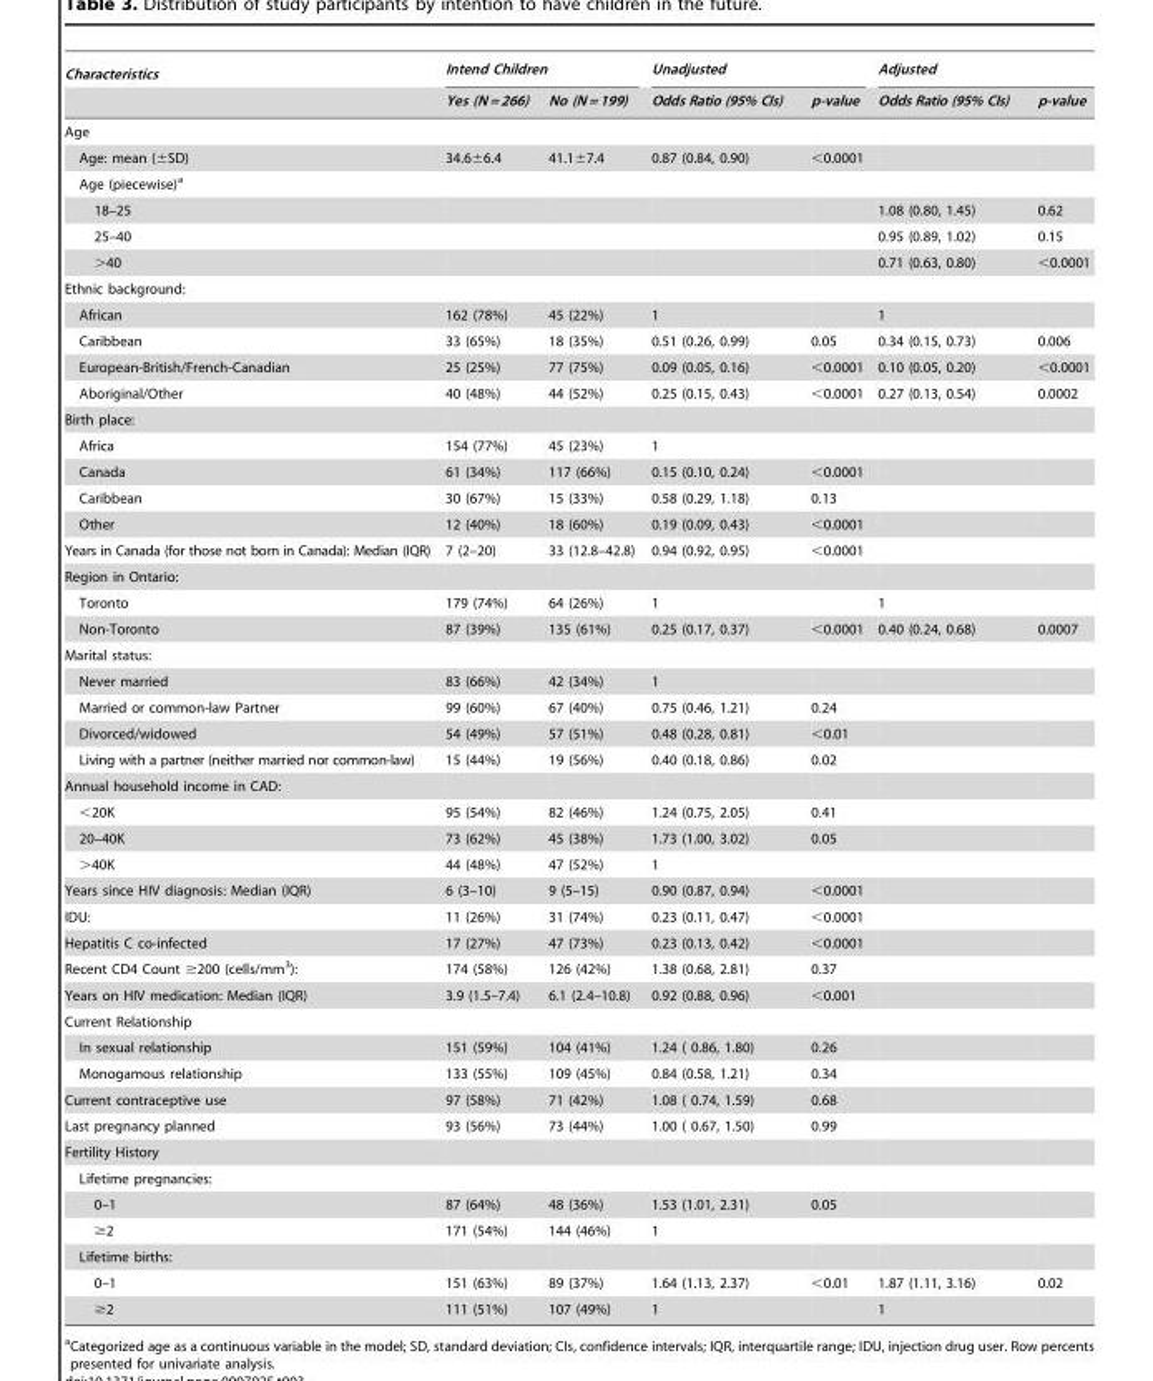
<table><thead><tr><td rowspan="2">Characteristics</td><td colspan="2">Intend Children</td><td colspan="2">Unadjusted</td><td colspan="2">Adjusted</td></tr><tr><td>Yes (N = 266)</td><td>No (N = 199)</td><td>Odds Ratio (95% CIs)</td><td>p-value</td><td>Odds Ratio (95% CIs)</td><td>p-value</td></tr></thead><tbody><tr><td colspan="7">Age</td></tr><tr><td>Age: mean (±SD)</td><td>34.6±6.4</td><td>41.1±7.4</td><td>0.87 (0.84, 0.90)</td><td>&lt;0.0001</td><td></td><td></td></tr><tr><td colspan="7">Age (piecewise)<sup>a</sup></td></tr><tr><td>18–25</td><td></td><td></td><td></td><td></td><td>1.08 (0.80, 1.45)</td><td>0.62</td></tr><tr><td>25–40</td><td></td><td></td><td></td><td></td><td>0.95 (0.89, 1.02)</td><td>0.15</td></tr><tr><td>&gt;40</td><td></td><td></td><td></td><td></td><td>0.71 (0.63, 0.80)</td><td>&lt;0.0001</td></tr><tr><td colspan="7">Ethnic background:</td></tr><tr><td>African</td><td>162 (78%)</td><td>45 (22%)</td><td>1</td><td></td><td>1</td><td></td></tr><tr><td>Caribbean</td><td>33 (65%)</td><td>18 (35%)</td><td>0.51 (0.26, 0.99)</td><td>0.05</td><td>0.34 (0.15, 0.73)</td><td>0.006</td></tr><tr><td>European-British/French-Canadian</td><td>25 (25%)</td><td>77 (75%)</td><td>0.09 (0.05, 0.16)</td><td>&lt;0.0001</td><td>0.10 (0.05, 0.20)</td><td>&lt;0.0001</td></tr><tr><td>Aboriginal/Other</td><td>40 (48%)</td><td>44 (52%)</td><td>0.25 (0.15, 0.43)</td><td>&lt;0.0001</td><td>0.27 (0.13, 0.54)</td><td>0.0002</td></tr><tr><td colspan="7">Birth place:</td></tr><tr><td>Africa</td><td>154 (77%)</td><td>45 (23%)</td><td>1</td><td></td><td></td><td></td></tr><tr><td>Canada</td><td>61 (34%)</td><td>117 (66%)</td><td>0.15 (0.10, 0.24)</td><td>&lt;0.0001</td><td></td><td></td></tr><tr><td>Caribbean</td><td>30 (67%)</td><td>15 (33%)</td><td>0.58 (0.29, 1.18)</td><td>0.13</td><td></td><td></td></tr><tr><td>Other</td><td>12 (40%)</td><td>18 (60%)</td><td>0.19 (0.09, 0.43)</td><td>&lt;0.0001</td><td></td><td></td></tr><tr><td>Years in Canada (for those not born in Canada): Median (IQR)</td><td>7 (2–20)</td><td>33 (12.8–42.8)</td><td>0.94 (0.92, 0.95)</td><td>&lt;0.0001</td><td></td><td></td></tr><tr><td colspan="7">Region in Ontario:</td></tr><tr><td>Toronto</td><td>179 (74%)</td><td>64 (26%)</td><td>1</td><td></td><td>1</td><td></td></tr><tr><td>Non-Toronto</td><td>87 (39%)</td><td>135 (61%)</td><td>0.25 (0.17, 0.37)</td><td>&lt;0.0001</td><td>0.40 (0.24, 0.68)</td><td>0.0007</td></tr><tr><td colspan="7">Marital status:</td></tr><tr><td>Never married</td><td>83 (66%)</td><td>42 (34%)</td><td>1</td><td></td><td></td><td></td></tr><tr><td>Married or common-law Partner</td><td>99 (60%)</td><td>67 (40%)</td><td>0.75 (0.46, 1.21)</td><td>0.24</td><td></td><td></td></tr><tr><td>Divorced/widowed</td><td>54 (49%)</td><td>57 (51%)</td><td>0.48 (0.28, 0.81)</td><td>&lt;0.01</td><td></td><td></td></tr><tr><td>Living with a partner (neither married nor common-law)</td><td>15 (44%)</td><td>19 (56%)</td><td>0.40 (0.18, 0.86)</td><td>0.02</td><td></td><td></td></tr><tr><td colspan="7">Annual household income in CAD:</td></tr><tr><td>&lt;20K</td><td>95 (54%)</td><td>82 (46%)</td><td>1.24 (0.75, 2.05)</td><td>0.41</td><td></td><td></td></tr><tr><td>20–40K</td><td>73 (62%)</td><td>45 (38%)</td><td>1.73 (1.00, 3.02)</td><td>0.05</td><td></td><td></td></tr><tr><td>&gt;40K</td><td>44 (48%)</td><td>47 (52%)</td><td>1</td><td></td><td></td><td></td></tr><tr><td>Years since HIV diagnosis: Median (IQR)</td><td>6 (3–10)</td><td>9 (5–15)</td><td>0.90 (0.87, 0.94)</td><td>&lt;0.0001</td><td></td><td></td></tr><tr><td>IDU:</td><td>11 (26%)</td><td>31 (74%)</td><td>0.23 (0.11, 0.47)</td><td>&lt;0.0001</td><td></td><td></td></tr><tr><td>Hepatitis C co-infected</td><td>17 (27%)</td><td>47 (73%)</td><td>0.23 (0.13, 0.42)</td><td>&lt;0.0001</td><td></td><td></td></tr><tr><td>Recent CD4 Count ≥200 (cells/mm<sup>3</sup>):</td><td>174 (58%)</td><td>126 (42%)</td><td>1.38 (0.68, 2.81)</td><td>0.37</td><td></td><td></td></tr><tr><td>Years on HIV medication: Median (IQR)</td><td>3.9 (1.5–7.4)</td><td>6.1 (2.4–10.8)</td><td>0.92 (0.88, 0.96)</td><td>&lt;0.001</td><td></td><td></td></tr><tr><td colspan="7">Current Relationship</td></tr><tr><td>In sexual relationship</td><td>151 (59%)</td><td>104 (41%)</td><td>1.24 ( 0.86, 1.80)</td><td>0.26</td><td></td><td></td></tr><tr><td>Monogamous relationship</td><td>133 (55%)</td><td>109 (45%)</td><td>0.84 (0.58, 1.21)</td><td>0.34</td><td></td><td></td></tr><tr><td>Current contraceptive use</td><td>97 (58%)</td><td>71 (42%)</td><td>1.08 ( 0.74, 1.59)</td><td>0.68</td><td></td><td></td></tr><tr><td>Last pregnancy planned</td><td>93 (56%)</td><td>73 (44%)</td><td>1.00 ( 0.67, 1.50)</td><td>0.99</td><td></td><td></td></tr><tr><td colspan="7">Fertility History</td></tr><tr><td colspan="7">Lifetime pregnancies:</td></tr><tr><td>0–1</td><td>87 (64%)</td><td>48 (36%)</td><td>1.53 (1.01, 2.31)</td><td>0.05</td><td></td><td></td></tr><tr><td>≥2</td><td>171 (54%)</td><td>144 (46%)</td><td>1</td><td></td><td></td><td></td></tr><tr><td colspan="7">Lifetime births:</td></tr><tr><td>0–1</td><td>151 (63%)</td><td>89 (37%)</td><td>1.64 (1.13, 2.37)</td><td>&lt;0.01</td><td>1.87 (1.11, 3.16)</td><td>0.02</td></tr><tr><td>≥2</td><td>111 (51%)</td><td>107 (49%)</td><td>1</td><td></td><td>1</td><td></td></tr></tbody></table>